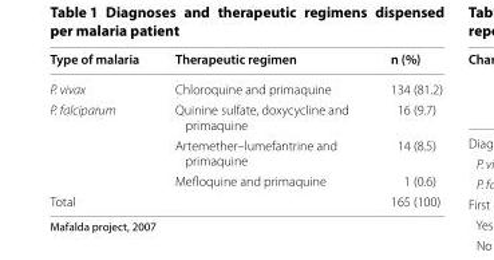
<table><thead><tr><td>Type of malaria</td><td>Therapeutic regimen</td><td>n (%)</td></tr></thead><tbody><tr><td>P. vivax</td><td>Chloroquine and primaquine</td><td>134 (81.2)</td></tr><tr><td rowspan="3">P. falciparum</td><td>Quinine sulfate, doxycycline and primaquine</td><td>16 (9.7)</td></tr><tr><td>Artemether–lumefantrine and primaquine</td><td>14 (8.5)</td></tr><tr><td>Mefloquine and primaquine</td><td>1 (0.6)</td></tr><tr><td>Total</td><td></td><td>165 (100)</td></tr></tbody></table>